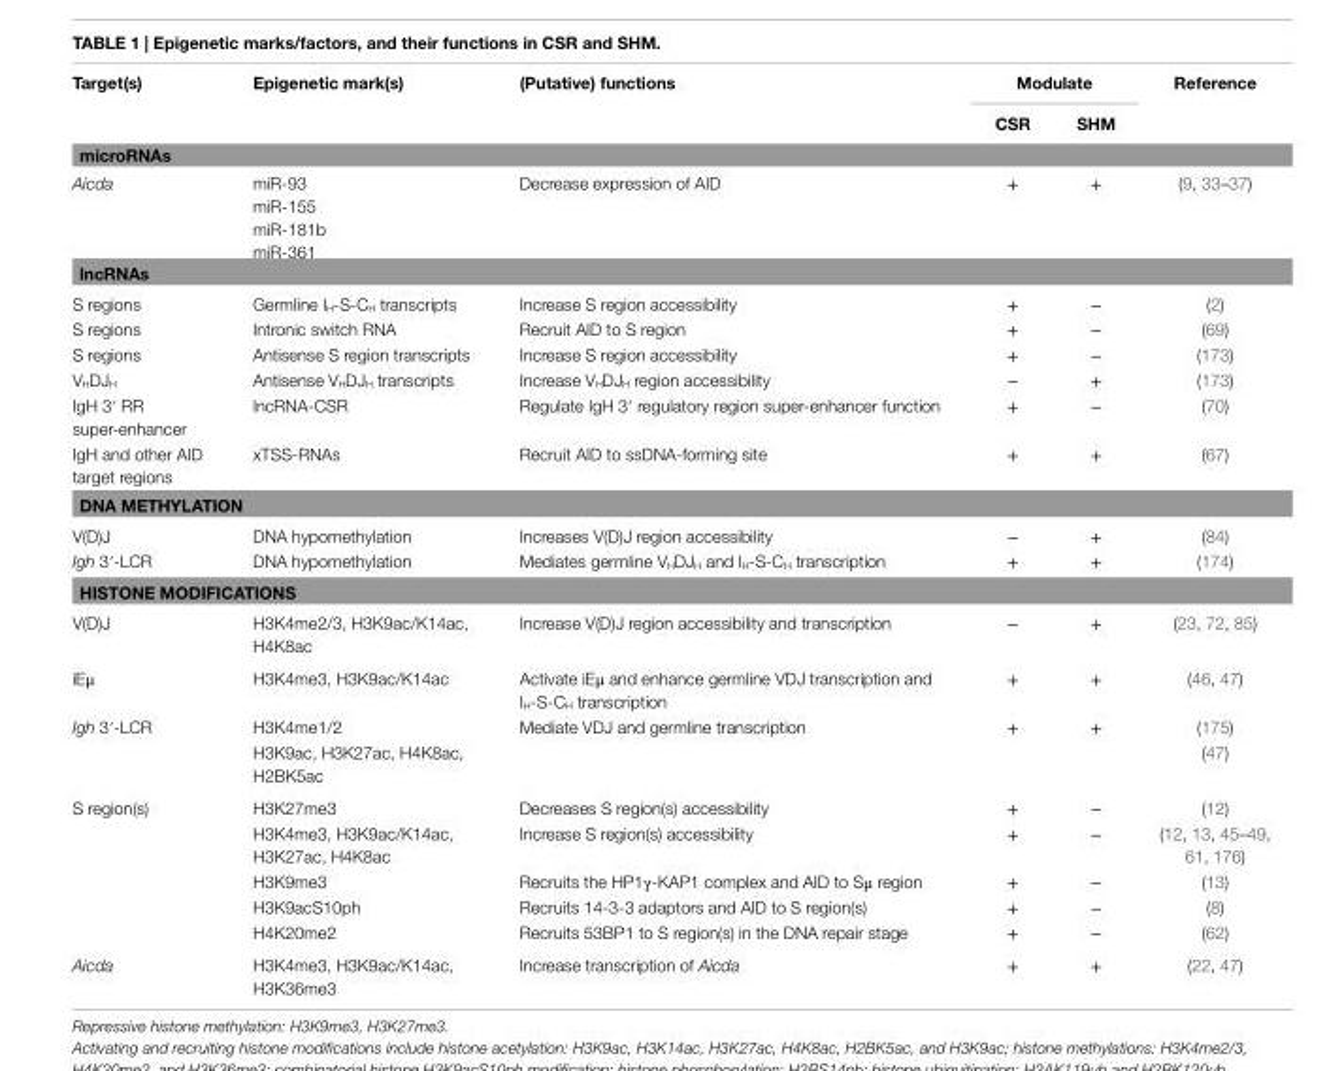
<table><thead><tr><td rowspan="2">Target(s)</td><td rowspan="2">epigenetic mark(s)</td><td rowspan="2">(Putative) functions</td><td colspan="2">Modulate</td><td rowspan="2">Reference</td></tr><tr><td>CSR</td><td>SHM</td></tr></thead><tbody><tr><td colspan="6">microRNAs</td></tr><tr><td rowspan="4">Aicda</td><td>miR-93</td><td rowspan="4">Decrease expression of AID</td><td rowspan="4">+</td><td rowspan="4">+</td><td rowspan="4">(9, 33–37)</td></tr><tr><td>miR-155</td></tr><tr><td>miR-181b</td></tr><tr><td>miR-361</td></tr><tr><td colspan="6">lncRNAs</td></tr><tr><td>S regions</td><td>Germline I<sub>H</sub>-S-C<sub>H</sub> transcripts</td><td>Increase S region accessibility</td><td>+</td><td>−</td><td>(2)</td></tr><tr><td>S regions</td><td>Intronic switch RNA</td><td>Recruit AID to S region</td><td>+</td><td>−</td><td>(69)</td></tr><tr><td>S regions</td><td>Antisense S region transcripts</td><td>Increase S region accessibility</td><td>+</td><td>−</td><td>(173)</td></tr><tr><td>V<sub>H</sub>DJ<sub>H</sub></td><td>Antisense V<sub>H</sub>DJ<sub>H</sub> transcripts</td><td>Increase V<sub>H</sub>DJ<sub>H</sub> region accessibility</td><td>−</td><td>+</td><td>(173)</td></tr><tr><td>IgH 3′ RR super-enhancer</td><td>lncRNA-CSR</td><td>Regulate IgH 3′ regulatory region super-enhancer function</td><td>+</td><td>−</td><td>(70)</td></tr><tr><td>IgH and other AID target regions</td><td>xTSS-RNAs</td><td>Recruit AID to ssDNA-forming site</td><td>+</td><td>+</td><td>(67)</td></tr><tr><td colspan="6">DNA MeTHYLATiON</td></tr><tr><td>V(D)J</td><td>DNA hypomethylation</td><td>Increases V(D)J region accessibility</td><td>−</td><td>+</td><td>(84)</td></tr><tr><td>Igh 3′-LCR</td><td>DNA hypomethylation</td><td>Mediates germline V<sub>H</sub>DJ<sub>H</sub> and I<sub>H</sub>-S-C<sub>H</sub> transcription</td><td>+</td><td>+</td><td>(174)</td></tr><tr><td colspan="6">HiSTONe MODiFiCATiONS</td></tr><tr><td>V(D)J</td><td>H3K4me2/3, H3K9ac/K14ac, H4K8ac</td><td>Increase V(D)J region accessibility and transcription</td><td>−</td><td>+</td><td>(23, 72, 85)</td></tr><tr><td>iEμ</td><td>H3K4me3, H3K9ac/K14ac</td><td>Activate iEμ and enhance germline VDJ transcription and I<sub>H</sub>-S-C<sub>H</sub> transcription</td><td>+</td><td>+</td><td>(46, 47)</td></tr><tr><td rowspan="2">Igh 3′-LCR</td><td>H3K4me1/2</td><td rowspan="2">Mediate VDJ and germline transcription</td><td rowspan="2">+</td><td rowspan="2">+</td><td>(175)</td></tr><tr><td>H3K9ac, H3K27ac, H4K8ac, H2BK5ac</td><td>(47)</td></tr><tr><td rowspan="5">S region(s)</td><td>H3K27me3</td><td>Decreases S region(s) accessibility</td><td>+</td><td>−</td><td>(12)</td></tr><tr><td>H3K4me3, H3K9ac/K14ac, H3K27ac, H4K8ac</td><td>Increase S region(s) accessibility</td><td>+</td><td>−</td><td>(12, 13, 45–49, 61, 176)</td></tr><tr><td>H3K9me3</td><td>Recruits the HP1γ-KAP1 complex and AID to Sμ region</td><td>+</td><td>−</td><td>(13)</td></tr><tr><td>H3K9acS10ph</td><td>Recruits 14-3-3 adaptors and AID to S region(s)</td><td>+</td><td>−</td><td>(8)</td></tr><tr><td>H4K20me2</td><td>Recruits 53BP1 to S region(s) in the DNA repair stage</td><td>+</td><td>−</td><td>(62)</td></tr><tr><td>Aicda</td><td>H3K4me3, H3K9ac/K14ac, H3K36me3</td><td>Increase transcription of Aicda</td><td>+</td><td>+</td><td>(22, 47)</td></tr></tbody></table>